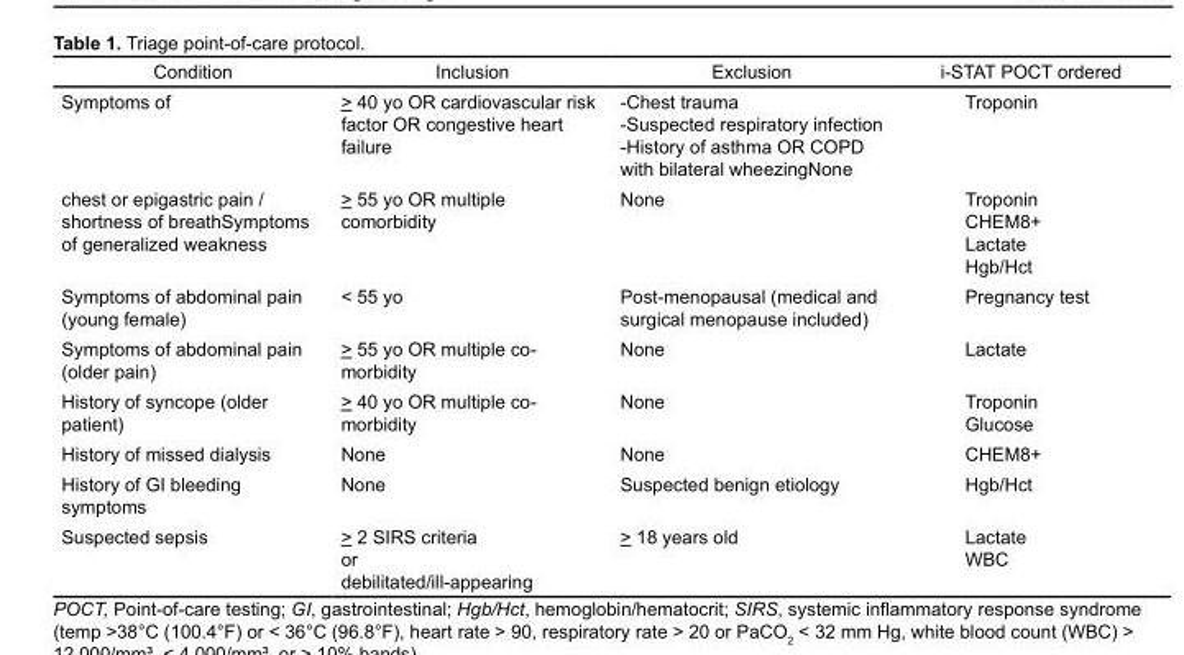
<table><thead><tr><td>Condition</td><td>Inclusion</td><td>Exclusion</td><td>i-STAT POCT ordered</td></tr></thead><tbody><tr><td>Symptoms of</td><td>&gt; 40 yo OR cardiovascular risk factor OR congestive heart failure</td><td>-Chest trauma -Suspected respiratory infection -History of asthma OR COPD with bilateral wheezingNone</td><td>Troponin</td></tr><tr><td>chest or epigastric pain / shortness of breathSymptoms of generalized weakness</td><td>&gt; 55 yo OR multiple comorbidity</td><td>None</td><td>Troponin CHEM8+ Lactate Hgb/Hct</td></tr><tr><td>Symptoms of abdominal pain (young female)</td><td>&lt; 55 yo</td><td>Post-menopausal (medical and surgical menopause included)</td><td>Pregnancy test</td></tr><tr><td>Symptoms of abdominal pain (older pain)</td><td>&gt; 55 yo OR multiple co- morbidity</td><td>None</td><td>Lactate</td></tr><tr><td>History of syncope (older patient)</td><td>&gt; 40 yo OR multiple co- morbidity</td><td>None</td><td>Troponin Glucose</td></tr><tr><td>History of missed dialysis</td><td>None</td><td>None</td><td>CHEM8+</td></tr><tr><td>History of GI bleeding symptoms</td><td>None</td><td>Suspected benign etiology</td><td>Hgb/Hct</td></tr><tr><td>Suspected sepsis</td><td>&gt; 2 SIRS criteria or debilitated/ill-appearing</td><td>&gt; 18 years old</td><td>Lactate WBC</td></tr></tbody></table>